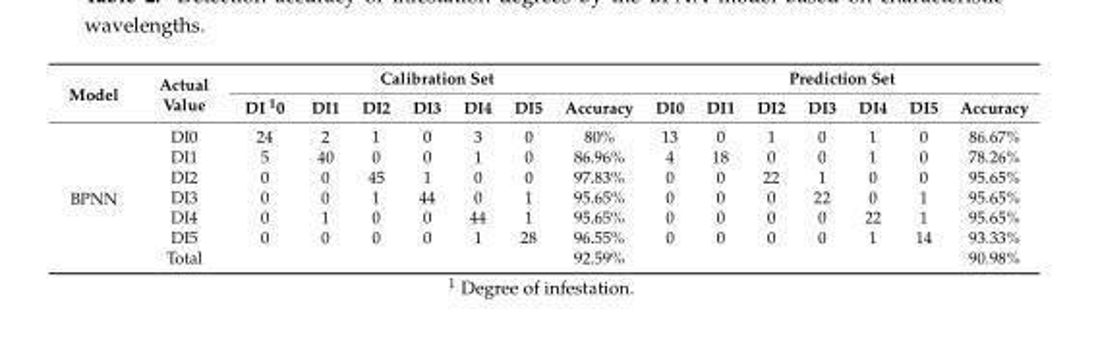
<table><thead><tr><td rowspan="2">Model</td><td rowspan="2">Actual Value</td><td colspan="7">Calibration Set</td><td colspan="7">Prediction Set</td></tr><tr><td>DI <sup>1</sup>0</td><td>DI1</td><td>DI2</td><td>DI3</td><td>DI4</td><td>DI5</td><td>Accuracy</td><td>DI0</td><td>DI1</td><td>DI2</td><td>DI3</td><td>DI4</td><td>DI5</td><td>Accuracy</td></tr></thead><tbody><tr><td rowspan="7">BPNN</td><td>DI0</td><td>24</td><td>2</td><td>1</td><td>0</td><td>3</td><td>0</td><td>80%</td><td>13</td><td>0</td><td>1</td><td>0</td><td>1</td><td>0</td><td>86.67%</td></tr><tr><td>DI1</td><td>5</td><td>40</td><td>0</td><td>0</td><td>1</td><td>0</td><td>86.96%</td><td>4</td><td>18</td><td>0</td><td>0</td><td>1</td><td>0</td><td>78.26%</td></tr><tr><td>DI2</td><td>0</td><td>0</td><td>45</td><td>1</td><td>0</td><td>0</td><td>97.83%</td><td>0</td><td>0</td><td>22</td><td>1</td><td>0</td><td>0</td><td>95.65%</td></tr><tr><td>DI3</td><td>0</td><td>0</td><td>1</td><td>44</td><td>0</td><td>1</td><td>95.65%</td><td>0</td><td>0</td><td>0</td><td>22</td><td>0</td><td>1</td><td>95.65%</td></tr><tr><td>DI4</td><td>0</td><td>1</td><td>0</td><td>0</td><td>44</td><td>1</td><td>95.65%</td><td>0</td><td>0</td><td>0</td><td>0</td><td>22</td><td>1</td><td>95.65%</td></tr><tr><td>DI5</td><td>0</td><td>0</td><td>0</td><td>0</td><td>1</td><td>28</td><td>96.55%</td><td>0</td><td>0</td><td>0</td><td>0</td><td>1</td><td>14</td><td>93.33%</td></tr><tr><td>Total</td><td></td><td></td><td></td><td></td><td></td><td></td><td>92.59%</td><td></td><td></td><td></td><td></td><td></td><td></td><td>90.98%</td></tr></tbody></table>